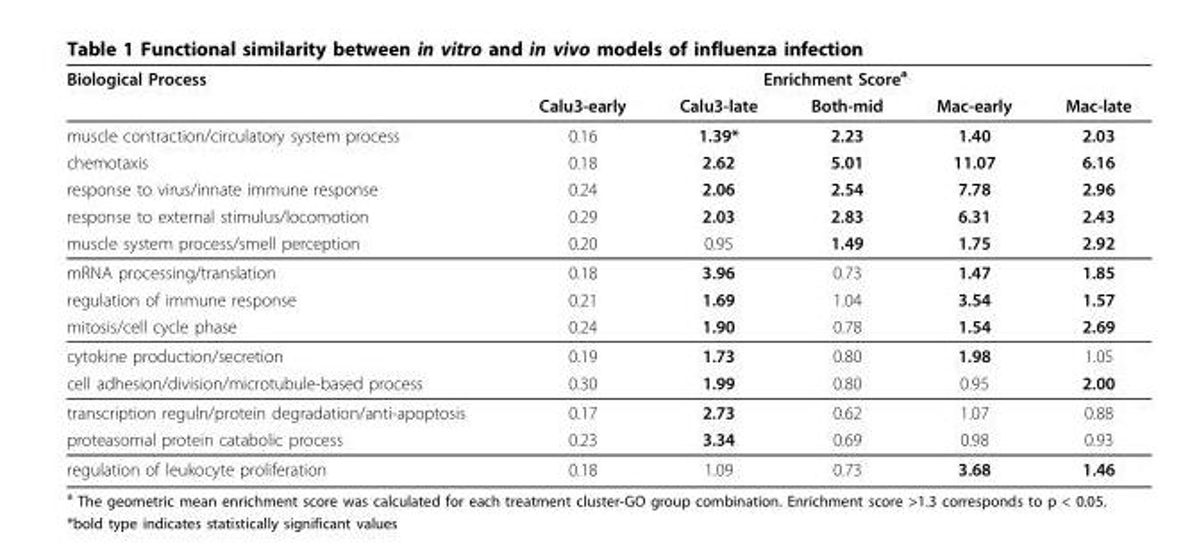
<table><thead><tr><td rowspan="2">Biological Process</td><td colspan="5">Enrichment Score<sup>a</sup></td></tr><tr><td>Calu3-early</td><td>Calu3-late</td><td>Both-mid</td><td>Mac-early</td><td>Mac-late</td></tr></thead><tbody><tr><td>muscle contraction/circulatory system process</td><td>0.16</td><td>1.39*</td><td>2.23</td><td>1.40</td><td>2.03</td></tr><tr><td>chemotaxis</td><td>0.18</td><td>2.62</td><td>5.01</td><td>11.07</td><td>6.16</td></tr><tr><td>response to virus/innate immune response</td><td>0.24</td><td>2.06</td><td>2.54</td><td>7.78</td><td>2.96</td></tr><tr><td>response to external stimulus/locomotion</td><td>0.29</td><td>2.03</td><td>2.83</td><td>6.31</td><td>2.43</td></tr><tr><td>muscle system process/smell perception</td><td>0.20</td><td>0.95</td><td>1.49</td><td>1.75</td><td>2.92</td></tr><tr><td>mRNA processing/translation</td><td>0.18</td><td>3.96</td><td>0.73</td><td>1.47</td><td>1.85</td></tr><tr><td>regulation of immune response</td><td>0.21</td><td>1.69</td><td>1.04</td><td>3.54</td><td>1.57</td></tr><tr><td>mitosis/cell cycle phase</td><td>0.24</td><td>1.90</td><td>0.78</td><td>1.54</td><td>2.69</td></tr><tr><td>cytokine production/secretion</td><td>0.19</td><td>1.73</td><td>0.80</td><td>1.98</td><td>1.05</td></tr><tr><td>cell adhesion/division/microtubule-based process</td><td>0.30</td><td>1.99</td><td>0.80</td><td>0.95</td><td>2.00</td></tr><tr><td>transcription reguln/protein degradation/anti-apoptosis</td><td>0.17</td><td>2.73</td><td>0.62</td><td>1.07</td><td>0.88</td></tr><tr><td>proteasomal protein catabolic process</td><td>0.23</td><td>3.34</td><td>0.69</td><td>0.98</td><td>0.93</td></tr><tr><td>regulation of leukocyte proliferation</td><td>0.18</td><td>1.09</td><td>0.73</td><td>3.68</td><td>1.46</td></tr></tbody></table>